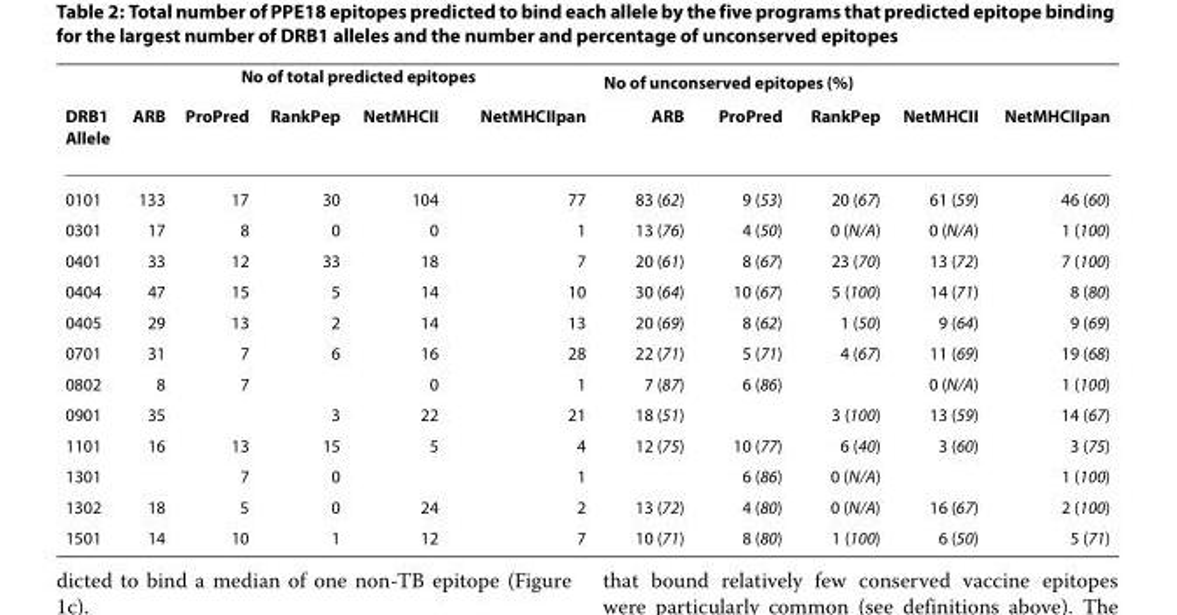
<table><thead><tr><td rowspan="2">DRB1 Allele</td><td colspan="5">No of total predicted epitopes</td><td colspan="5">No of unconserved epitopes (%)</td></tr><tr><td>ARB</td><td>ProPred</td><td>RankPep</td><td>NetMHCII</td><td>NetMHCIIpan</td><td>ARB</td><td>ProPred</td><td>RankPep</td><td>NetMHCII</td><td>NetMHCIIpan</td></tr></thead><tbody><tr><td>0101</td><td>133</td><td>17</td><td>30</td><td>104</td><td>77</td><td>83 (62)</td><td>9 (53)</td><td>20 (67)</td><td>61 (59)</td><td>46 (60)</td></tr><tr><td>0301</td><td>17</td><td>8</td><td>0</td><td>0</td><td>1</td><td>13 (76)</td><td>4 (50)</td><td>0 (N/A)</td><td>0 (N/A)</td><td>1 (100)</td></tr><tr><td>0401</td><td>33</td><td>12</td><td>33</td><td>18</td><td>7</td><td>20 (61)</td><td>8 (67)</td><td>23 (70)</td><td>13 (72)</td><td>7 (100)</td></tr><tr><td>0404</td><td>47</td><td>15</td><td>5</td><td>14</td><td>10</td><td>30 (64)</td><td>10 (67)</td><td>5 (100)</td><td>14 (71)</td><td>8 (80)</td></tr><tr><td>0405</td><td>29</td><td>13</td><td>2</td><td>14</td><td>13</td><td>20 (69)</td><td>8 (62)</td><td>1 (50)</td><td>9 (64)</td><td>9 (69)</td></tr><tr><td>0701</td><td>31</td><td>7</td><td>6</td><td>16</td><td>28</td><td>22 (71)</td><td>5 (71)</td><td>4 (67)</td><td>11 (69)</td><td>19 (68)</td></tr><tr><td>0802</td><td>8</td><td>7</td><td></td><td>0</td><td>1</td><td>7 (87)</td><td>6 (86)</td><td></td><td>0 (N/A)</td><td>1 (100)</td></tr><tr><td>0901</td><td>35</td><td></td><td>3</td><td>22</td><td>21</td><td>18 (51)</td><td></td><td>3 (100)</td><td>13 (59)</td><td>14 (67)</td></tr><tr><td>1101</td><td>16</td><td>13</td><td>15</td><td>5</td><td>4</td><td>12 (75)</td><td>10 (77)</td><td>6 (40)</td><td>3 (60)</td><td>3 (75)</td></tr><tr><td>1301</td><td></td><td>7</td><td>0</td><td></td><td>1</td><td></td><td>6 (86)</td><td>0 (N/A)</td><td></td><td>1 (100)</td></tr><tr><td>1302</td><td>18</td><td>5</td><td>0</td><td>24</td><td>2</td><td>13 (72)</td><td>4 (80)</td><td>0 (N/A)</td><td>16 (67)</td><td>2 (100)</td></tr><tr><td>1501</td><td>14</td><td>10</td><td>1</td><td>12</td><td>7</td><td>10 (71)</td><td>8 (80)</td><td>1 (100)</td><td>6 (50)</td><td>5 (71)</td></tr></tbody></table>